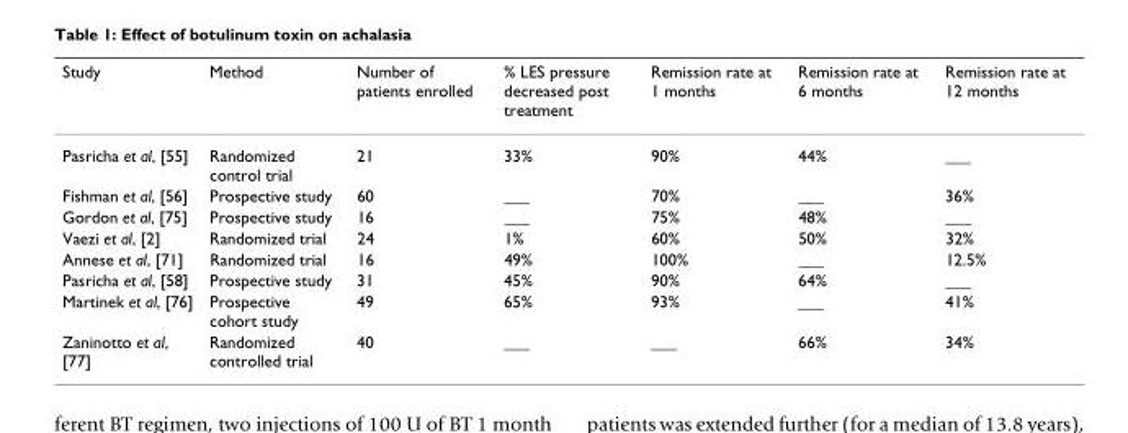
<table><thead><tr><td>Study</td><td>Method</td><td>Number of patients enrolled</td><td>% LES pressure decreased post treatment</td><td>Remission rate at 1 months</td><td>Remission rate at 6 months</td><td>Remission rate at 12 months</td></tr></thead><tbody><tr><td>Pasricha et al, [55]</td><td>Randomized control trial</td><td>21</td><td>33%</td><td>90%</td><td>44%</td><td>___</td></tr><tr><td>Fishman et al, [56]</td><td>Prospective study</td><td>60</td><td>___</td><td>70%</td><td>___</td><td>36%</td></tr><tr><td>Gordon et al, [75]</td><td>Prospective study</td><td>16</td><td>___</td><td>75%</td><td>48%</td><td>___</td></tr><tr><td>Vaezi et al, [2]</td><td>Randomized trial</td><td>24</td><td>1%</td><td>60%</td><td>50%</td><td>32%</td></tr><tr><td>Annese et al, [71]</td><td>Randomized trial</td><td>16</td><td>49%</td><td>100%</td><td>___</td><td>12.5%</td></tr><tr><td>Pasricha et al, [58]</td><td>Prospective study</td><td>31</td><td>45%</td><td>90%</td><td>64%</td><td>___</td></tr><tr><td>Martinek et al, [76]</td><td>Prospective cohort study</td><td>49</td><td>65%</td><td>93%</td><td>___</td><td>41%</td></tr><tr><td>Zaninotto et al, [77]</td><td>Randomized controlled trial</td><td>40</td><td>___</td><td>___</td><td>66%</td><td>34%</td></tr></tbody></table>